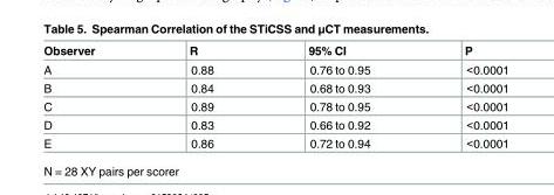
<table><thead><tr><td>Observer</td><td>R</td><td>95% CI</td><td>P</td></tr></thead><tbody><tr><td>A</td><td>0.88</td><td>0.76 to 0.95</td><td>&lt;0.0001</td></tr><tr><td>B</td><td>0.84</td><td>0.68 to 0.93</td><td>&lt;0.0001</td></tr><tr><td>C</td><td>0.89</td><td>0.78 to 0.95</td><td>&lt;0.0001</td></tr><tr><td>D</td><td>0.83</td><td>0.66 to 0.92</td><td>&lt;0.0001</td></tr><tr><td>E</td><td>0.86</td><td>0.72 to 0.94</td><td>&lt;0.0001</td></tr></tbody></table>